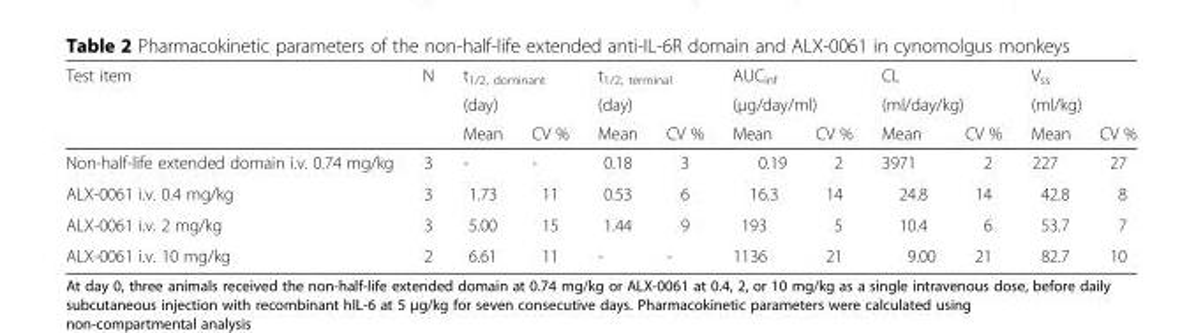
<table><thead><tr><td rowspan="3">Test item</td><td rowspan="3">N</td><td rowspan="2" colspan="2">t<sub>1/2, dominant</sub> (day)</td><td rowspan="2" colspan="2">t<sub>1/2, terminal</sub> (day)</td><td rowspan="2" colspan="2">AUC<sub>inf</sub> (μg/day/ml)</td><td rowspan="2" colspan="2">CL (ml/day/kg)</td><td rowspan="2" colspan="2">V<sub>ss</sub> (ml/kg)</td></tr><tr></tr><tr><td>Mean</td><td>CV %</td><td>Mean</td><td>CV %</td><td>Mean</td><td>CV %</td><td>Mean</td><td>CV %</td><td>Mean</td><td>CV %</td></tr></thead><tbody><tr><td>Non-half-life extended domain i.v. 0.74 mg/kg</td><td>3</td><td>-</td><td>-</td><td>0.18</td><td>3</td><td>0.19</td><td>2</td><td>3971</td><td>2</td><td>227</td><td>27</td></tr><tr><td>ALX-0061 i.v. 0.4 mg/kg</td><td>3</td><td>1.73</td><td>11</td><td>0.53</td><td>6</td><td>16.3</td><td>14</td><td>24.8</td><td>14</td><td>42.8</td><td>8</td></tr><tr><td>ALX-0061 i.v. 2 mg/kg</td><td>3</td><td>5.00</td><td>15</td><td>1.44</td><td>9</td><td>193</td><td>5</td><td>10.4</td><td>6</td><td>53.7</td><td>7</td></tr><tr><td>ALX-0061 i.v. 10 mg/kg</td><td>2</td><td>6.61</td><td>11</td><td>-</td><td>-</td><td>1136</td><td>21</td><td>9.00</td><td>21</td><td>82.7</td><td>10</td></tr></tbody></table>